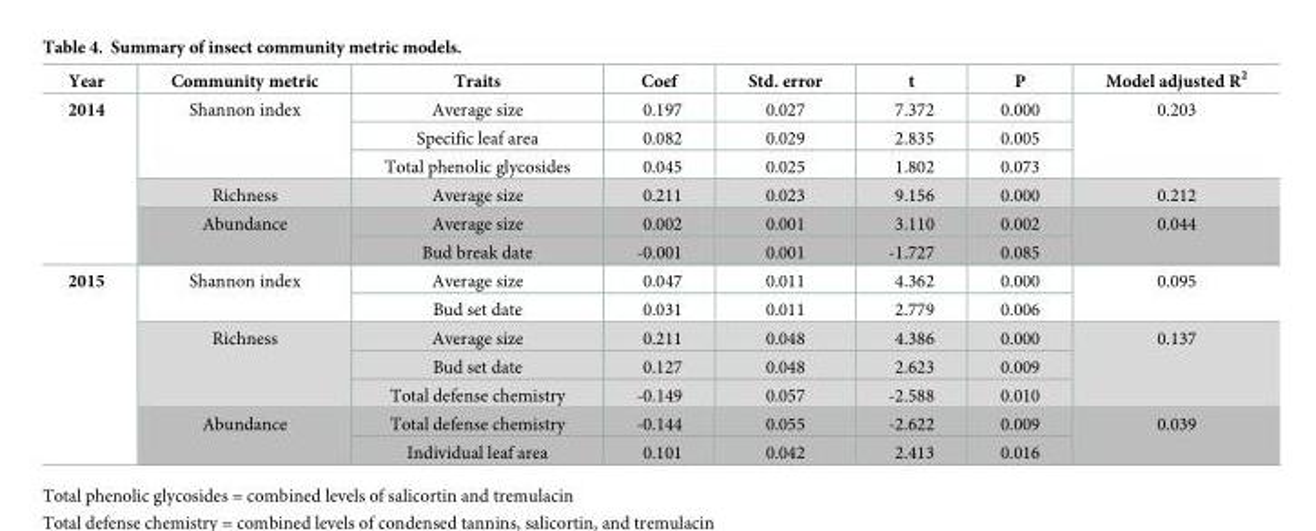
<table><thead><tr><td>Year</td><td>Community metric</td><td>Traits</td><td>Coef</td><td>Std. error</td><td>t</td><td>P</td><td>Model adjusted R<sup>2</sup></td></tr></thead><tbody><tr><td rowspan="6">2014</td><td rowspan="3">Shannon index</td><td>Average size</td><td>0.197</td><td>0.027</td><td>7.372</td><td>0.000</td><td rowspan="3">0.203</td></tr><tr><td>Specific leaf area</td><td>0.082</td><td>0.029</td><td>2.835</td><td>0.005</td></tr><tr><td>Total phenolic glycosides</td><td>0.045</td><td>0.025</td><td>1.802</td><td>0.073</td></tr><tr><td>Richness</td><td>Average size</td><td>0.211</td><td>0.023</td><td>9.156</td><td>0.000</td><td>0.212</td></tr><tr><td rowspan="2">Abundance</td><td>Average size</td><td>0.002</td><td>0.001</td><td>3.110</td><td>0.002</td><td rowspan="2">0.044</td></tr><tr><td>Bud break date</td><td>-0.001</td><td>0.001</td><td>-1.727</td><td>0.085</td></tr><tr><td rowspan="7">2015</td><td rowspan="2">Shannon index</td><td>Average size</td><td>0.047</td><td>0.011</td><td>4.362</td><td>0.000</td><td rowspan="2">0.095</td></tr><tr><td>Bud set date</td><td>0.031</td><td>0.011</td><td>2.779</td><td>0.006</td></tr><tr><td rowspan="3">Richness</td><td>Average size</td><td>0.211</td><td>0.048</td><td>4.386</td><td>0.000</td><td rowspan="3">0.137</td></tr><tr><td>Bud set date</td><td>0.127</td><td>0.048</td><td>2.623</td><td>0.009</td></tr><tr><td>Total defense chemistry</td><td>-0.149</td><td>0.057</td><td>-2.588</td><td>0.010</td></tr><tr><td rowspan="2">Abundance</td><td>Total defense chemistry</td><td>-0.144</td><td>0.055</td><td>-2.622</td><td>0.009</td><td rowspan="2">0.039</td></tr><tr><td>Individual leaf area</td><td>0.101</td><td>0.042</td><td>2.413</td><td>0.016</td></tr></tbody></table>